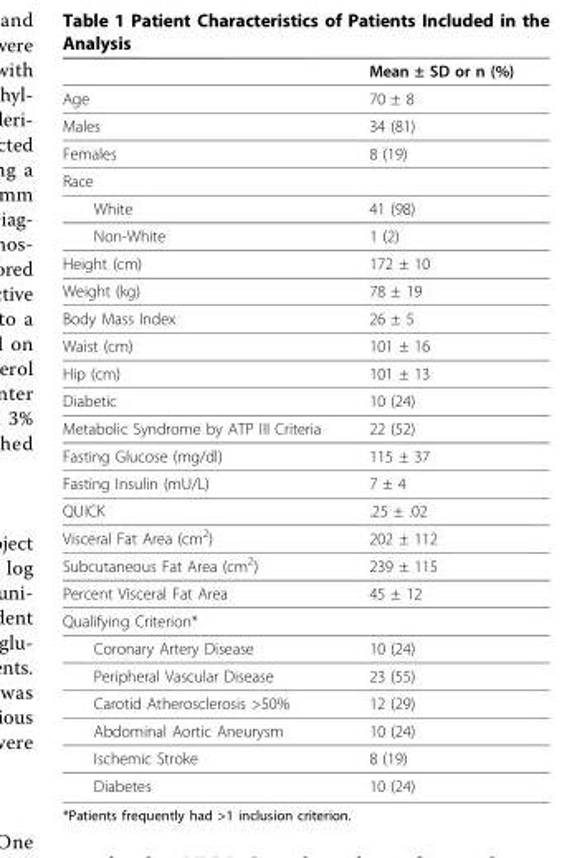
<table><thead><tr><td></td><td>Mean ± SD or n (%)</td></tr></thead><tbody><tr><td>Age</td><td>70 ± 8</td></tr><tr><td>Males</td><td>34 (81)</td></tr><tr><td>Females</td><td>8 (19)</td></tr><tr><td colspan="2">Race</td></tr><tr><td>White</td><td>41 (98)</td></tr><tr><td>Non-White</td><td>1 (2)</td></tr><tr><td>Height (cm)</td><td>172 ± 10</td></tr><tr><td>Weight (kg)</td><td>78 ± 19</td></tr><tr><td>Body Mass Index</td><td>26 ± 5</td></tr><tr><td>Waist (cm)</td><td>101 ± 16</td></tr><tr><td>Hip (cm)</td><td>101 ± 13</td></tr><tr><td>Diabetic</td><td>10 (24)</td></tr><tr><td>Metabolic Syndrome by ATP III Criteria</td><td>22 (52)</td></tr><tr><td>Fasting Glucose (mg/dl)</td><td>115 ± 37</td></tr><tr><td>Fasting Insulin (mU/L)</td><td>7 ± 4</td></tr><tr><td>QUICK</td><td>.25 ± .02</td></tr><tr><td>Visceral Fat Area (cm<sup>2</sup>)</td><td>202 ± 112</td></tr><tr><td>Subcutaneous Fat Area (cm<sup>2</sup>)</td><td>239 ± 115</td></tr><tr><td>Percent Visceral Fat Area</td><td>45 ± 12</td></tr><tr><td colspan="2">Qualifying Criterion*</td></tr><tr><td>Coronary Artery Disease</td><td>10 (24)</td></tr><tr><td>Peripheral Vascular Disease</td><td>23 (55)</td></tr><tr><td>Carotid Atherosclerosis &gt;50%</td><td>12 (29)</td></tr><tr><td>Abdominal Aortic Aneurysm</td><td>10 (24)</td></tr><tr><td>Ischemic Stroke</td><td>8 (19)</td></tr><tr><td>Diabetes</td><td>10 (24)</td></tr></tbody></table>